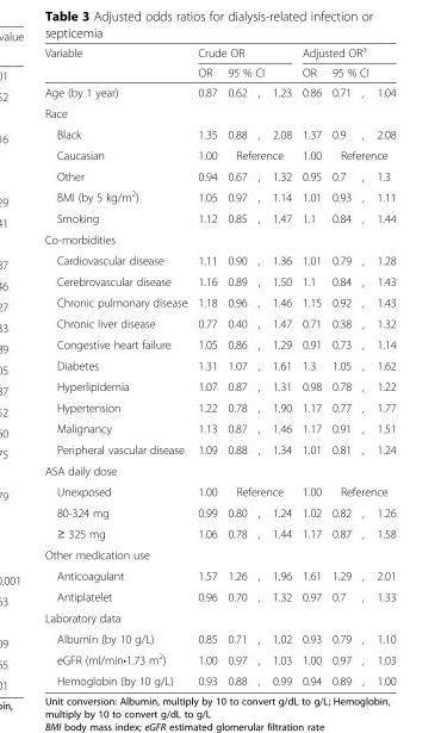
<table><thead><tr><td rowspan="3">Variable Age (by 1 year)</td><td colspan="4">Crude OR</td><td colspan="4">Adjusted OR<sup>a</sup></td></tr><tr><td rowspan="2">OR 0.87</td><td colspan="3">95 % CI</td><td rowspan="2">OR 0.86</td><td colspan="3">95 % CI</td></tr><tr><td>0.62</td><td>,</td><td>1.23</td><td>0.71</td><td>,</td><td>1.04</td></tr></thead><tbody><tr><td colspan="9">Race</td></tr><tr><td>Black</td><td>1.35</td><td>0.88</td><td>,</td><td>2.08</td><td>1.37</td><td>0.9</td><td>,</td><td>2.08</td></tr><tr><td>Caucasian</td><td>1.00</td><td colspan="3">Reference</td><td>1.00</td><td colspan="3">Reference</td></tr><tr><td>Other</td><td>0.94</td><td>0.67</td><td>,</td><td>1.32</td><td>0.95</td><td>0.7</td><td>,</td><td>1.3</td></tr><tr><td>BMI (by 5 kg/m<sup>2</sup>)</td><td>1.05</td><td>0.97</td><td>,</td><td>1.14</td><td>1.01</td><td>0.93</td><td>,</td><td>1.11</td></tr><tr><td>Smoking</td><td>1.12</td><td>0.85</td><td>,</td><td>1.47</td><td>1.1</td><td>0.84</td><td>,</td><td>1.44</td></tr><tr><td colspan="9">Co-morbidities</td></tr><tr><td>Cardiovascular disease</td><td>1.11</td><td>0.90</td><td>,</td><td>1.36</td><td>1.01</td><td>0.79</td><td>,</td><td>1.28</td></tr><tr><td>Cerebrovascular disease</td><td>1.16</td><td>0.89</td><td>,</td><td>1.50</td><td>1.1</td><td>0.84</td><td>,</td><td>1.43</td></tr><tr><td>Chronic pulmonary disease</td><td>1.18</td><td>0.96</td><td>,</td><td>1.46</td><td>1.15</td><td>0.92</td><td>,</td><td>1.43</td></tr><tr><td>Chronic liver disease</td><td>0.77</td><td>0.40</td><td>,</td><td>1.47</td><td>0.71</td><td>0.38</td><td>,</td><td>1.32</td></tr><tr><td>Congestive heart failure</td><td>1.05</td><td>0.86</td><td>,</td><td>1.29</td><td>0.91</td><td>0.73</td><td>,</td><td>1.14</td></tr><tr><td>Diabetes</td><td>1.31</td><td>1.07</td><td>,</td><td>1.61</td><td>1.3</td><td>1.05</td><td>,</td><td>1.62</td></tr><tr><td>Hyperlipidemia</td><td>1.07</td><td>0.87</td><td>,</td><td>1.31</td><td>0.98</td><td>0.78</td><td>,</td><td>1.22</td></tr><tr><td>Hypertension</td><td>1.22</td><td>0.78</td><td>,</td><td>1.90</td><td>1.17</td><td>0.77</td><td>,</td><td>1.77</td></tr><tr><td>Malignancy</td><td>1.13</td><td>0.87</td><td>,</td><td>1.46</td><td>1.17</td><td>0.91</td><td>,</td><td>1.51</td></tr><tr><td>Peripheral vascular disease</td><td>1.09</td><td>0.88</td><td>,</td><td>1.34</td><td>1.01</td><td>0.81</td><td>,</td><td>1.24</td></tr><tr><td colspan="9">ASA daily dose</td></tr><tr><td>Unexposed</td><td>1.00</td><td colspan="3">Reference</td><td>1.00</td><td colspan="3">Reference</td></tr><tr><td>80-324 mg</td><td>0.99</td><td>0.80</td><td>,</td><td>1.24</td><td>1.02</td><td>0.82</td><td>,</td><td>1.26</td></tr><tr><td>≥ 325 mg</td><td>1.06</td><td>0.78</td><td>,</td><td>1.44</td><td>1.17</td><td>0.87</td><td>,</td><td>1.58</td></tr><tr><td colspan="9">Other medication use</td></tr><tr><td>Anticoagulant</td><td>1.57</td><td>1.26</td><td>,</td><td>1.96</td><td>1.61</td><td>1.29</td><td>,</td><td>2.01</td></tr><tr><td>Antiplatelet</td><td>0.96</td><td>0.70</td><td>,</td><td>1.32</td><td>0.97</td><td>0.7</td><td>,</td><td>1.33</td></tr><tr><td colspan="9">Laboratory data</td></tr><tr><td>Albumin (by 10 g/L)</td><td>0.85</td><td>0.71</td><td>,</td><td>1.02</td><td>0.93</td><td>0.79</td><td>,</td><td>1.10</td></tr><tr><td>eGFR (ml/min•1.73 m<sup>2</sup>)</td><td>1.00</td><td>0.97</td><td>,</td><td>1.03</td><td>1.00</td><td>0.97</td><td>,</td><td>1.03</td></tr><tr><td>Hemoglobin (by 10 g/L)</td><td>0.93</td><td>0.88</td><td>,</td><td>0.99</td><td>0.94</td><td>0.89</td><td>,</td><td>1.00</td></tr></tbody></table>